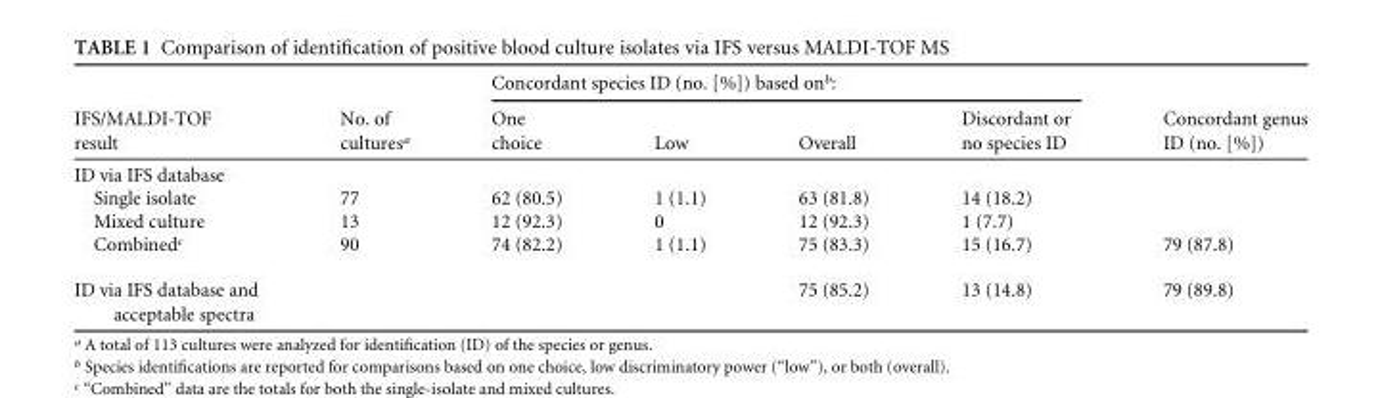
<table><thead><tr><td rowspan="2">IFS/MALDI-TOF result</td><td rowspan="2">No. of cultures<sup>a</sup></td><td colspan="4">Concordant species ID (no. [%]) based on<sup>b</sup>:</td><td rowspan="2">Concordant genus ID (no. [%])</td></tr><tr><td>One choice</td><td>Low</td><td>Overall</td><td>Discordant or no species ID</td></tr></thead><tbody><tr><td colspan="7">ID via IFS database</td></tr><tr><td>Single isolate</td><td>77</td><td>62 (80.5)</td><td>1 (1.1)</td><td>63 (81.8)</td><td>14 (18.2)</td><td></td></tr><tr><td>Mixed culture</td><td>13</td><td>12 (92.3)</td><td>0</td><td>12 (92.3)</td><td>1 (7.7)</td><td></td></tr><tr><td>Combined<sup>c</sup></td><td>90</td><td>74 (82.2)</td><td>1 (1.1)</td><td>75 (83.3)</td><td>15 (16.7)</td><td>79 (87.8)</td></tr><tr><td>ID via IFS database and acceptable spectra</td><td></td><td></td><td></td><td>75 (85.2)</td><td>13 (14.8)</td><td>79 (89.8)</td></tr></tbody></table>